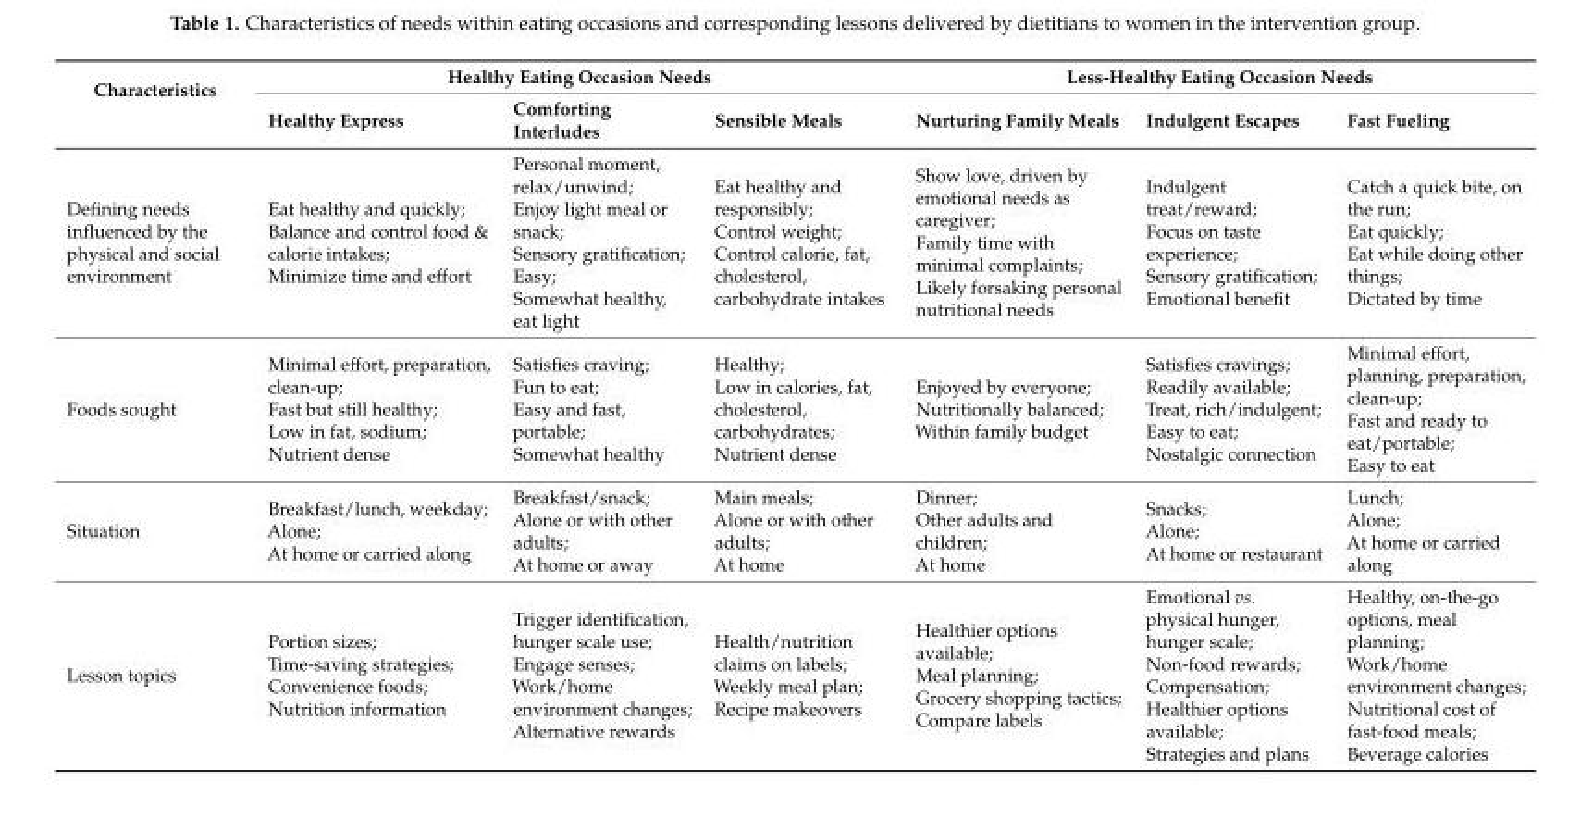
<table><thead><tr><td rowspan="2">Characteristics</td><td colspan="3">Healthy Eating Occasion Needs</td><td colspan="3">Less-Healthy Eating Occasion Needs</td></tr><tr><td>Healthy Express</td><td>Comforting Interludes</td><td>Sensible Meals</td><td>Nurturing Family Meals</td><td>Indulgent Escapes</td><td>Fast Fueling</td></tr></thead><tbody><tr><td>Defining needs influenced by the physical and social environment</td><td>Eat healthy and quickly; Balance and control food &amp; calorie intakes; Minimize time and effort</td><td>Personal moment, relax/unwind; Enjoy light meal or snack; Sensory gratification; Easy; Somewhat healthy, eat light</td><td>Eat healthy and responsibly; Control weight; Control calorie, fat, cholesterol, carbohydrate intakes</td><td>Show love, driven by emotional needs as caregiver; Family time with minimal complaints; Likely forsaking personal nutritional needs</td><td>Indulgent treat/reward; Focus on taste experience; Sensory gratification; Emotional benefit</td><td>Catch a quick bite, on the run; Eat quickly; Eat while doing other things; Dictated by time</td></tr><tr><td>Foods sought</td><td>Minimal effort, preparation, clean-up; Fast but still healthy; Low in fat, sodium; Nutrient dense</td><td>Satisfies craving; Fun to eat; Easy and fast, portable; Somewhat healthy</td><td>Healthy; Low in calories, fat, cholesterol, carbohydrates; Nutrient dense</td><td>Enjoyed by everyone; Nutritionally balanced; Within family budget</td><td>Satisfies cravings; Readily available; Treat, rich/indulgent; Easy to eat; Nostalgic connection</td><td>Minimal effort, planning, preparation, clean-up; Fast and ready to eat/portable; Easy to eat</td></tr><tr><td>Situation</td><td>Breakfast/lunch, weekday; Alone; At home or carried along</td><td>Breakfast/snack; Alone or with other adults; At home or away</td><td>Main meals; Alone or with other adults; At home</td><td>Dinner; Other adults and children; At home</td><td>Snacks; Alone; At home or restaurant</td><td>Lunch; Alone; At home or carried along</td></tr><tr><td>Lesson topics</td><td>Portion sizes; Time-saving strategies; Convenience foods; Nutrition information</td><td>Trigger identification, hunger scale use; Engage senses; Work/home environment changes; Alternative rewards</td><td>Health/nutrition claims on labels; Weekly meal plan; Recipe makeovers</td><td>Healthier options available; Meal planning; Grocery shopping tactics; Compare labels</td><td>Emotional vs. physical hunger, hunger scale; Non-food rewards; Compensation; Healthier options available; Strategies and plans</td><td>Healthy, on-the-go options, meal planning; Work/home environment changes; Nutritional cost of fast-food meals; Beverage calories</td></tr></tbody></table>